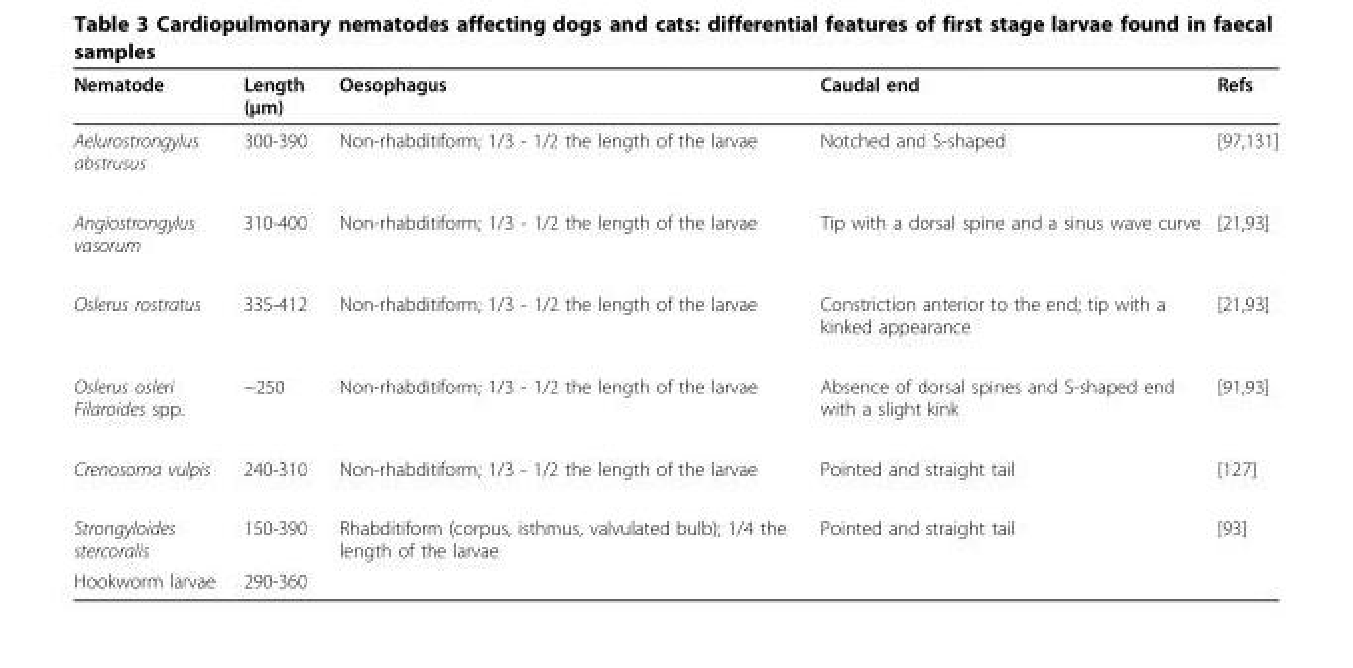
<table><thead><tr><td>Nematode</td><td>Length (μm)</td><td>Oesophagus</td><td>Caudal end</td><td>Refs</td></tr></thead><tbody><tr><td>Aelurostrongylus abstrusus</td><td>300-390</td><td>Non-rhabditiform; 1/3 - 1/2 the length of the larvae</td><td>Notched and S-shaped</td><td>[97,131]</td></tr><tr><td>Angiostrongylus vasorum</td><td>310-400</td><td>Non-rhabditiform; 1/3 - 1/2 the length of the larvae</td><td>Tip with a dorsal spine and a sinus wave curve</td><td>[21,93]</td></tr><tr><td>Oslerus rostratus</td><td>335-412</td><td>Non-rhabditiform; 1/3 - 1/2 the length of the larvae</td><td>Constriction anterior to the end; tip with a kinked appearance</td><td>[21,93]</td></tr><tr><td>Oslerus osleri Filaroides spp.</td><td>~250</td><td>Non-rhabditiform; 1/3 - 1/2 the length of the larvae</td><td>Absence of dorsal spines and S-shaped end with a slight kink</td><td>[91,93]</td></tr><tr><td>Crenosoma vulpis</td><td>240-310</td><td>Non-rhabditiform; 1/3 - 1/2 the length of the larvae</td><td>Pointed and straight tail</td><td>[127]</td></tr><tr><td>Strongyloides stercoralis</td><td>150-390</td><td>Rhabditiform (corpus, isthmus, valvulated bulb); 1/4 the length of the larvae</td><td>Pointed and straight tail</td><td>[93]</td></tr><tr><td>Hookworm larvae</td><td>290-360</td><td></td><td></td><td></td></tr></tbody></table>